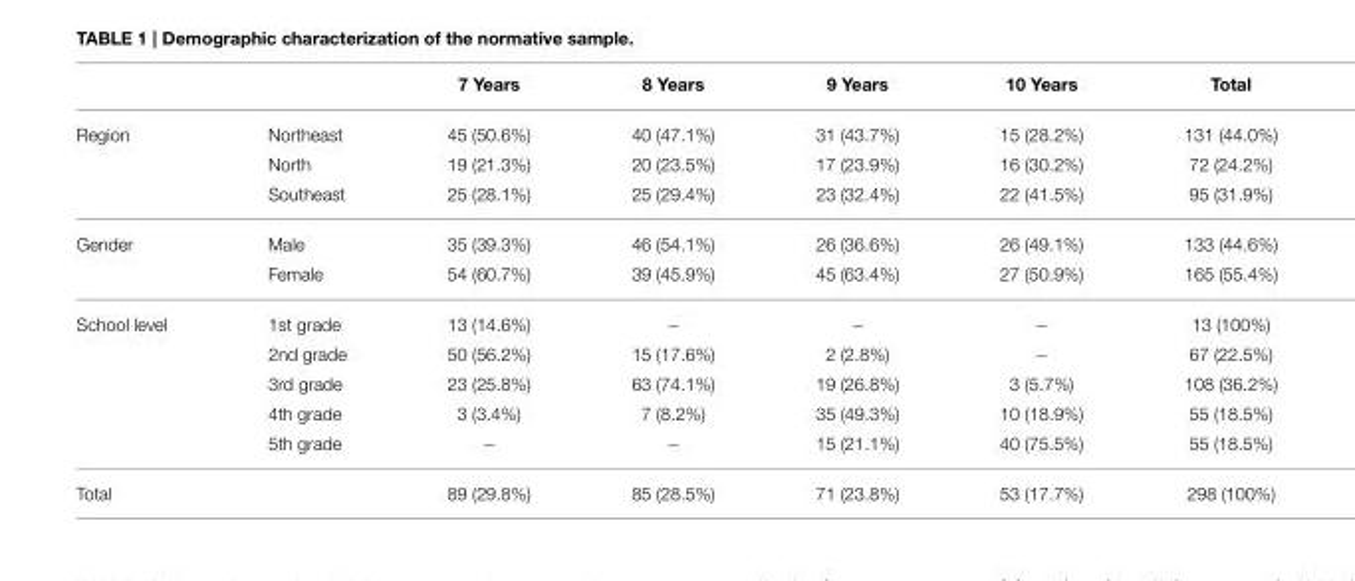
<table><thead><tr><td></td><td></td><td>7 Years</td><td>8 Years</td><td>9 Years</td><td>10 Years</td><td>Total</td></tr></thead><tbody><tr><td rowspan="3">Region</td><td>Northeast</td><td>45 (50.6%)</td><td>40 (47.1%)</td><td>31 (43.7%)</td><td>15 (28.2%)</td><td>131 (44.0%)</td></tr><tr><td>North</td><td>19 (21.3%)</td><td>20 (23.5%)</td><td>17 (23.9%)</td><td>16 (30.2%)</td><td>72 (24.2%)</td></tr><tr><td>Southeast</td><td>25 (28.1%)</td><td>25 (29.4%)</td><td>23 (32.4%)</td><td>22 (41.5%)</td><td>95 (31.9%)</td></tr><tr><td rowspan="2">Gender</td><td>Male</td><td>35 (39.3%)</td><td>46 (54.1%)</td><td>26 (36.6%)</td><td>26 (49.1%)</td><td>133 (44.6%)</td></tr><tr><td>Female</td><td>54 (60.7%)</td><td>39 (45.9%)</td><td>45 (63.4%)</td><td>27 (50.9%)</td><td>165 (55.4%)</td></tr><tr><td rowspan="5">School level</td><td>1st grade</td><td>13 (14.6%)</td><td>−</td><td>−</td><td>−</td><td>13 (100%)</td></tr><tr><td>2nd grade</td><td>50 (56.2%)</td><td>15 (17.6%)</td><td>2 (2.8%)</td><td>−</td><td>67 (22.5%)</td></tr><tr><td>3rd grade</td><td>23 (25.8%)</td><td>63 (74.1%)</td><td>19 (26.8%)</td><td>3 (5.7%)</td><td>108 (36.2%)</td></tr><tr><td>4th grade</td><td>3 (3.4%)</td><td>7 (8.2%)</td><td>35 (49.3%)</td><td>10 (18.9%)</td><td>55 (18.5%)</td></tr><tr><td>5th grade</td><td>−</td><td>−</td><td>15 (21.1%)</td><td>40 (75.5%)</td><td>55 (18.5%)</td></tr><tr><td>Total</td><td></td><td>89 (29.8%)</td><td>85 (28.5%)</td><td>71 (23.8%)</td><td>53 (17.7%)</td><td>298 (100%)</td></tr></tbody></table>